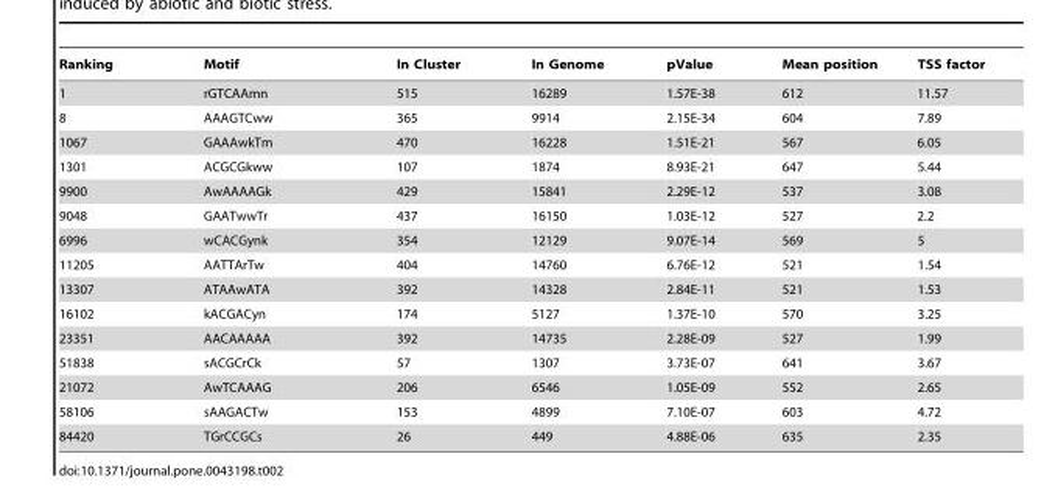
<table><thead><tr><td>Ranking</td><td>Motif</td><td>In Cluster</td><td>In Genome</td><td>pValue</td><td>Mean position</td><td>TSS factor</td></tr></thead><tbody><tr><td>1</td><td>rGTCAAmn</td><td>515</td><td>16289</td><td>1.57E-38</td><td>612</td><td>11.57</td></tr><tr><td>8</td><td>AAAGTCww</td><td>365</td><td>9914</td><td>2.15E-34</td><td>604</td><td>7.89</td></tr><tr><td>1067</td><td>GAAAwkTm</td><td>470</td><td>16228</td><td>1.51E-21</td><td>567</td><td>6.05</td></tr><tr><td>1301</td><td>ACGCGkww</td><td>107</td><td>1874</td><td>8.93E-21</td><td>647</td><td>5.44</td></tr><tr><td>9900</td><td>AwAAAAGk</td><td>429</td><td>15841</td><td>2.29E-12</td><td>537</td><td>3.08</td></tr><tr><td>9048</td><td>GAATwwTr</td><td>437</td><td>16150</td><td>1.03E-12</td><td>527</td><td>2.2</td></tr><tr><td>6996</td><td>wCACGynk</td><td>354</td><td>12129</td><td>9.07E-14</td><td>569</td><td>5</td></tr><tr><td>11205</td><td>AATTArTw</td><td>404</td><td>14760</td><td>6.76E-12</td><td>521</td><td>1.54</td></tr><tr><td>13307</td><td>ATAAwATA</td><td>392</td><td>14328</td><td>2.84E-11</td><td>521</td><td>1.53</td></tr><tr><td>16102</td><td>kACGACyn</td><td>174</td><td>5127</td><td>1.37E-10</td><td>570</td><td>3.25</td></tr><tr><td>23351</td><td>AACAAAAA</td><td>392</td><td>14735</td><td>2.28E-09</td><td>527</td><td>1.99</td></tr><tr><td>51838</td><td>sACGCrCk</td><td>57</td><td>1307</td><td>3.73E-07</td><td>641</td><td>3.67</td></tr><tr><td>21072</td><td>AwTCAAAG</td><td>206</td><td>6546</td><td>1.05E-09</td><td>552</td><td>2.65</td></tr><tr><td>58106</td><td>sAAGACTw</td><td>153</td><td>4899</td><td>7.10E-07</td><td>603</td><td>4.72</td></tr><tr><td>84420</td><td>TGrCCGCs</td><td>26</td><td>449</td><td>4.88E-06</td><td>635</td><td>2.35</td></tr></tbody></table>